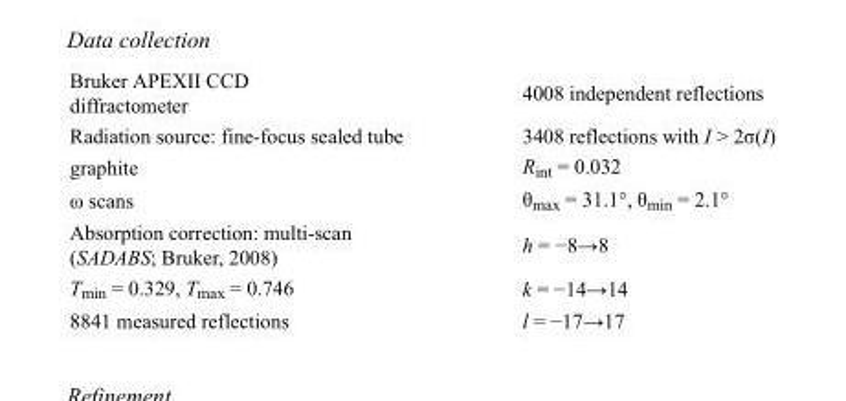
<table><tbody><tr><td>Bruker APEXII CCD diffractometer</td><td>4008 independent reflections</td></tr><tr><td>Radiation source: fine-focus sealed tube</td><td>3408 reflections with I &gt; 2σ(I)</td></tr><tr><td>graphite</td><td>R<sub>int</sub> = 0.032</td></tr><tr><td>ω scans</td><td>θ<sub>max</sub> = 31.1°, θ<sub>min</sub> = 2.1°</td></tr><tr><td>Absorption correction: multi-scan (SADABS; Bruker, 2008)</td><td>h = −8→8</td></tr><tr><td>T<sub>min</sub> = 0.329, T<sub>max</sub> = 0.746</td><td>k = −14→14</td></tr><tr><td>8841 measured reflections</td><td>l = −17→17</td></tr></tbody></table>